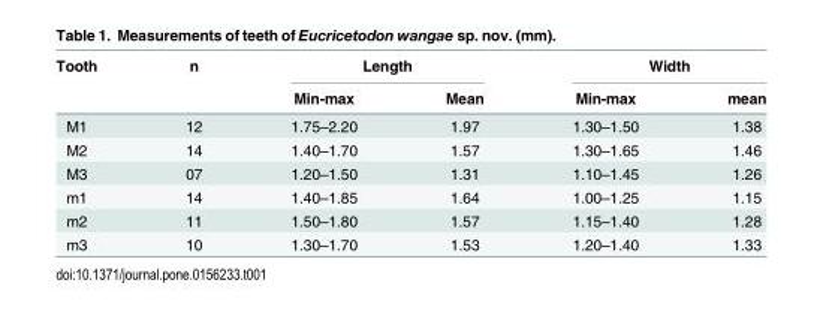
<table><thead><tr><td rowspan="2">Tooth</td><td rowspan="2">n</td><td colspan="2">Length</td><td colspan="2">Width</td></tr><tr><td>Min-max</td><td>Mean</td><td>Min-max</td><td>mean</td></tr></thead><tbody><tr><td>M1</td><td>12</td><td>1.75–2.20</td><td>1.97</td><td>1.30–1.50</td><td>1.38</td></tr><tr><td>M2</td><td>14</td><td>1.40–1.70</td><td>1.57</td><td>1.30–1.65</td><td>1.46</td></tr><tr><td>M3</td><td>07</td><td>1.20–1.50</td><td>1.31</td><td>1.10–1.45</td><td>1.26</td></tr><tr><td>m1</td><td>14</td><td>1.40–1.85</td><td>1.64</td><td>1.00–1.25</td><td>1.15</td></tr><tr><td>m2</td><td>11</td><td>1.50–1.80</td><td>1.57</td><td>1.15–1.40</td><td>1.28</td></tr><tr><td>m3</td><td>10</td><td>1.30–1.70</td><td>1.53</td><td>1.20–1.40</td><td>1.33</td></tr></tbody></table>